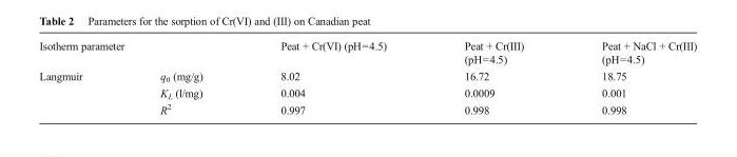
<table><tbody><tr><td colspan="2">Isotherm parameter</td><td>Peat + Cr(VI) (pH=4.5)</td><td>Peat + Cr(III) (pH=4.5)</td><td>Peat + NaCl + Cr(III) (pH=4.5)</td></tr><tr><td rowspan="3">Langmuir</td><td>q<sub>0</sub> (mg/g)</td><td>8.02</td><td>16.72</td><td>18.75</td></tr><tr><td>K<sub>L</sub> (l/mg)</td><td>0.004</td><td>0.0009</td><td>0.001</td></tr><tr><td>R<sup>2</sup></td><td>0.997</td><td>0.998</td><td>0.998</td></tr></tbody></table>